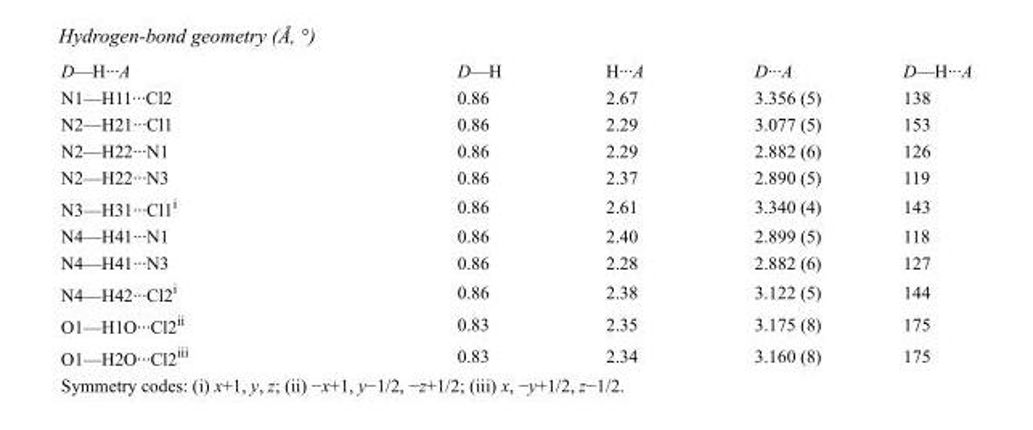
<table><tbody><tr><td>D—H···A</td><td>D—H</td><td>H···A</td><td>D···A</td><td>D—H···A</td></tr><tr><td>N1—H11···Cl2</td><td>0.86</td><td>2.67</td><td>3.356 (5)</td><td>138</td></tr><tr><td>N2—H21···Cl1</td><td>0.86</td><td>2.29</td><td>3.077 (5)</td><td>153</td></tr><tr><td>N2—H22···N1</td><td>0.86</td><td>2.29</td><td>2.882 (6)</td><td>126</td></tr><tr><td>N2—H22···N3</td><td>0.86</td><td>2.37</td><td>2.890 (5)</td><td>119</td></tr><tr><td>N3—H31···Cl1<sup>i</sup></td><td>0.86</td><td>2.61</td><td>3.340 (4)</td><td>143</td></tr><tr><td>N4—H41···N1</td><td>0.86</td><td>2.40</td><td>2.899 (5)</td><td>118</td></tr><tr><td>N4—H41···N3</td><td>0.86</td><td>2.28</td><td>2.882 (6)</td><td>127</td></tr><tr><td>N4—H42···Cl2<sup>i</sup></td><td>0.86</td><td>2.38</td><td>3.122 (5)</td><td>144</td></tr><tr><td>O1—H1O···Cl2<sup>ii</sup></td><td>0.83</td><td>2.35</td><td>3.175 (8)</td><td>175</td></tr><tr><td>O1—H2O···Cl2<sup>iii</sup></td><td>0.83</td><td>2.34</td><td>3.160 (8)</td><td>175</td></tr></tbody></table>